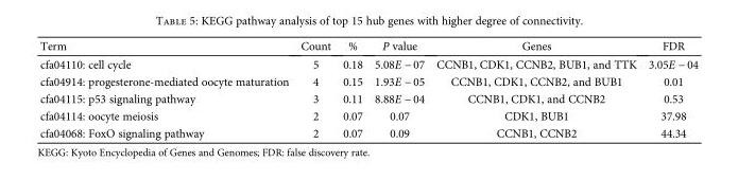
<table><thead><tr><td>Term</td><td>Count</td><td>%</td><td>P value</td><td>Genes</td><td>FDR</td></tr></thead><tbody><tr><td>cfa04110: cell cycle</td><td>5</td><td>0.18</td><td>5.08E − 07</td><td>CCNB1, CDK1, CCNB2, BUB1, and TTK</td><td>3.05E − 04</td></tr><tr><td>cfa04914: progesterone-mediated oocyte maturation</td><td>4</td><td>0.15</td><td>1.93E − 05</td><td>CCNB1, CDK1, CCNB2, and BUB1</td><td>0.01</td></tr><tr><td>cfa04115: p53 signaling pathway</td><td>3</td><td>0.11</td><td>8.88E − 04</td><td>CCNB1, CDK1, and CCNB2</td><td>0.53</td></tr><tr><td>cfa04114: oocyte meiosis</td><td>2</td><td>0.07</td><td>0.07</td><td>CDK1, BUB1</td><td>37.98</td></tr><tr><td>cfa04068: FoxO signaling pathway</td><td>2</td><td>0.07</td><td>0.09</td><td>CCNB1, CCNB2</td><td>44.34</td></tr></tbody></table>